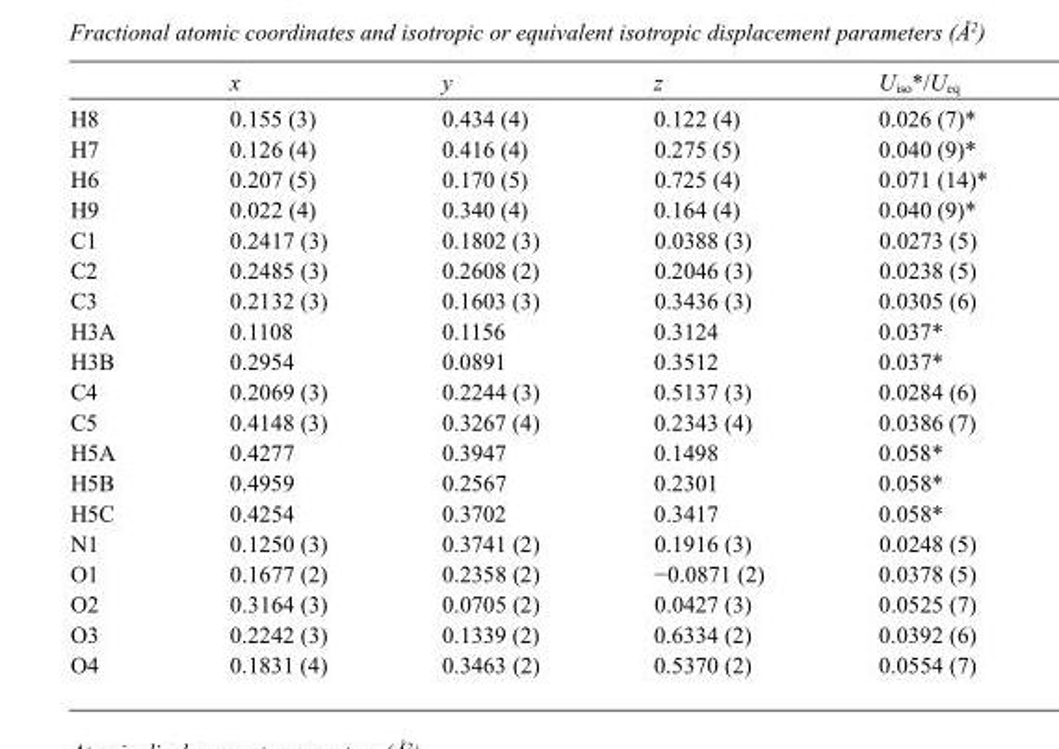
<table><thead><tr><td></td><td>x</td><td>y</td><td>z</td><td>U<sub>iso</sub>*/U<sub>eq</sub></td></tr></thead><tbody><tr><td>H8</td><td>0.155 (3)</td><td>0.434 (4)</td><td>0.122 (4)</td><td>0.026 (7)*</td></tr><tr><td>H7</td><td>0.126 (4)</td><td>0.416 (4)</td><td>0.275 (5)</td><td>0.040 (9)*</td></tr><tr><td>H6</td><td>0.207 (5)</td><td>0.170 (5)</td><td>0.725 (4)</td><td>0.071 (14)*</td></tr><tr><td>H9</td><td>0.022 (4)</td><td>0.340 (4)</td><td>0.164 (4)</td><td>0.040 (9)*</td></tr><tr><td>C1</td><td>0.2417 (3)</td><td>0.1802 (3)</td><td>0.0388 (3)</td><td>0.0273 (5)</td></tr><tr><td>C2</td><td>0.2485 (3)</td><td>0.2608 (2)</td><td>0.2046 (3)</td><td>0.0238 (5)</td></tr><tr><td>C3</td><td>0.2132 (3)</td><td>0.1603 (3)</td><td>0.3436 (3)</td><td>0.0305 (6)</td></tr><tr><td>H3A</td><td>0.1108</td><td>0.1156</td><td>0.3124</td><td>0.037*</td></tr><tr><td>H3B</td><td>0.2954</td><td>0.0891</td><td>0.3512</td><td>0.037*</td></tr><tr><td>C4</td><td>0.2069 (3)</td><td>0.2244 (3)</td><td>0.5137 (3)</td><td>0.0284 (6)</td></tr><tr><td>C5</td><td>0.4148 (3)</td><td>0.3267 (4)</td><td>0.2343 (4)</td><td>0.0386 (7)</td></tr><tr><td>H5A</td><td>0.4277</td><td>0.3947</td><td>0.1498</td><td>0.058*</td></tr><tr><td>H5B</td><td>0.4959</td><td>0.2567</td><td>0.2301</td><td>0.058*</td></tr><tr><td>H5C</td><td>0.4254</td><td>0.3702</td><td>0.3417</td><td>0.058*</td></tr><tr><td>N1</td><td>0.1250 (3)</td><td>0.3741 (2)</td><td>0.1916 (3)</td><td>0.0248 (5)</td></tr><tr><td>O1</td><td>0.1677 (2)</td><td>0.2358 (2)</td><td>−0.0871 (2)</td><td>0.0378 (5)</td></tr><tr><td>O2</td><td>0.3164 (3)</td><td>0.0705 (2)</td><td>0.0427 (3)</td><td>0.0525 (7)</td></tr><tr><td>O3</td><td>0.2242 (3)</td><td>0.1339 (2)</td><td>0.6334 (2)</td><td>0.0392 (6)</td></tr><tr><td>O4</td><td>0.1831 (4)</td><td>0.3463 (2)</td><td>0.5370 (2)</td><td>0.0554 (7)</td></tr></tbody></table>